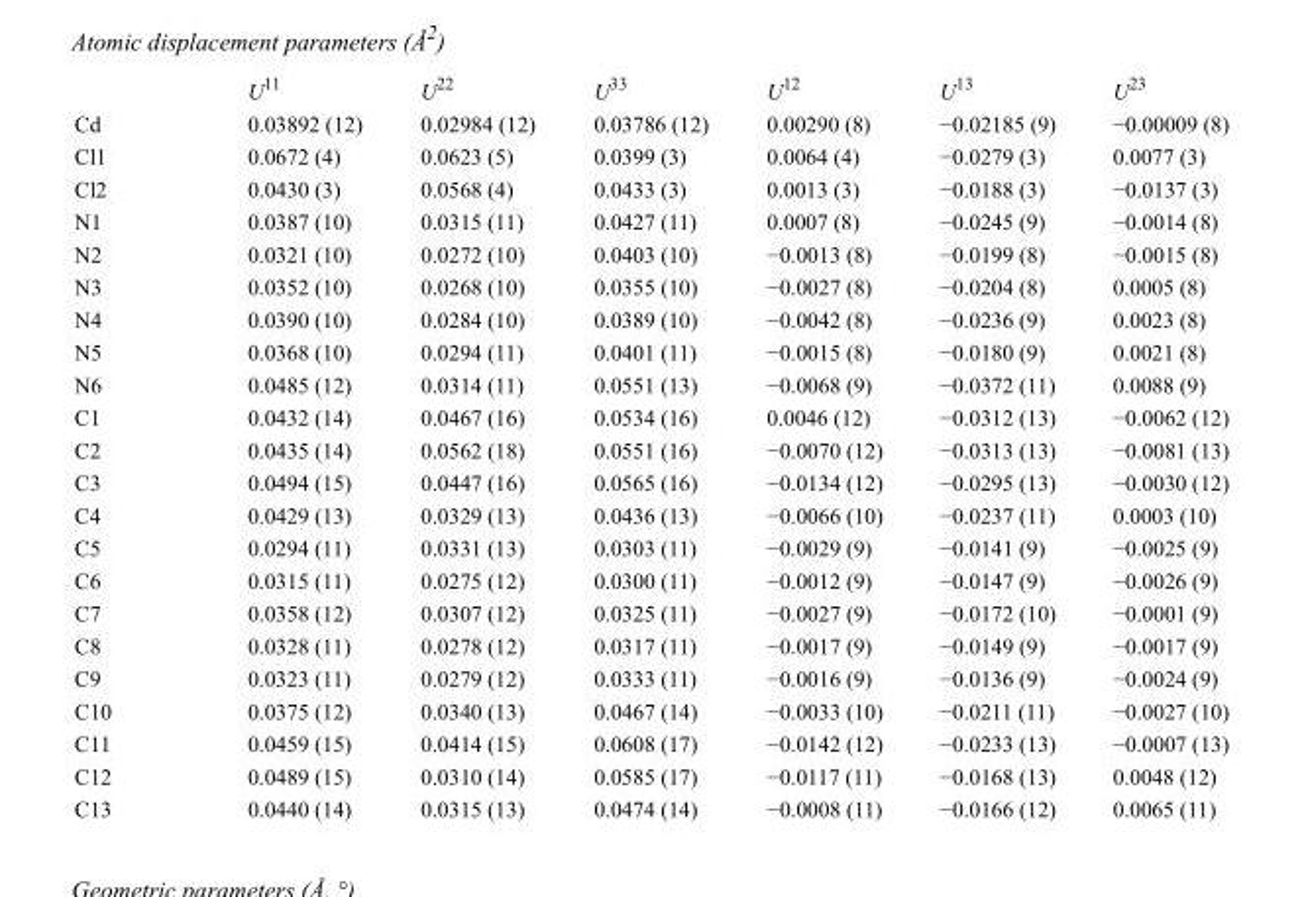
<table><thead><tr><td></td><td>U<sup>11</sup></td><td>U<sup>22</sup></td><td>U<sup>33</sup></td><td>U<sup>12</sup></td><td>U<sup>13</sup></td><td>U<sup>23</sup></td></tr></thead><tbody><tr><td>Cd</td><td>0.03892 (12)</td><td>0.02984 (12)</td><td>0.03786 (12)</td><td>0.00290 (8)</td><td>−0.02185 (9)</td><td>−0.00009 (8)</td></tr><tr><td>Cl1</td><td>0.0672 (4)</td><td>0.0623 (5)</td><td>0.0399 (3)</td><td>0.0064 (4)</td><td>−0.0279 (3)</td><td>0.0077 (3)</td></tr><tr><td>Cl2</td><td>0.0430 (3)</td><td>0.0568 (4)</td><td>0.0433 (3)</td><td>0.0013 (3)</td><td>−0.0188 (3)</td><td>−0.0137 (3)</td></tr><tr><td>N1</td><td>0.0387 (10)</td><td>0.0315 (11)</td><td>0.0427 (11)</td><td>0.0007 (8)</td><td>−0.0245 (9)</td><td>−0.0014 (8)</td></tr><tr><td>N2</td><td>0.0321 (10)</td><td>0.0272 (10)</td><td>0.0403 (10)</td><td>−0.0013 (8)</td><td>−0.0199 (8)</td><td>−0.0015 (8)</td></tr><tr><td>N3</td><td>0.0352 (10)</td><td>0.0268 (10)</td><td>0.0355 (10)</td><td>−0.0027 (8)</td><td>−0.0204 (8)</td><td>0.0005 (8)</td></tr><tr><td>N4</td><td>0.0390 (10)</td><td>0.0284 (10)</td><td>0.0389 (10)</td><td>−0.0042 (8)</td><td>−0.0236 (9)</td><td>0.0023 (8)</td></tr><tr><td>N5</td><td>0.0368 (10)</td><td>0.0294 (11)</td><td>0.0401 (11)</td><td>−0.0015 (8)</td><td>−0.0180 (9)</td><td>0.0021 (8)</td></tr><tr><td>N6</td><td>0.0485 (12)</td><td>0.0314 (11)</td><td>0.0551 (13)</td><td>−0.0068 (9)</td><td>−0.0372 (11)</td><td>0.0088 (9)</td></tr><tr><td>C1</td><td>0.0432 (14)</td><td>0.0467 (16)</td><td>0.0534 (16)</td><td>0.0046 (12)</td><td>−0.0312 (13)</td><td>−0.0062 (12)</td></tr><tr><td>C2</td><td>0.0435 (14)</td><td>0.0562 (18)</td><td>0.0551 (16)</td><td>−0.0070 (12)</td><td>−0.0313 (13)</td><td>−0.0081 (13)</td></tr><tr><td>C3</td><td>0.0494 (15)</td><td>0.0447 (16)</td><td>0.0565 (16)</td><td>−0.0134 (12)</td><td>−0.0295 (13)</td><td>−0.0030 (12)</td></tr><tr><td>C4</td><td>0.0429 (13)</td><td>0.0329 (13)</td><td>0.0436 (13)</td><td>−0.0066 (10)</td><td>−0.0237 (11)</td><td>0.0003 (10)</td></tr><tr><td>C5</td><td>0.0294 (11)</td><td>0.0331 (13)</td><td>0.0303 (11)</td><td>−0.0029 (9)</td><td>−0.0141 (9)</td><td>−0.0025 (9)</td></tr><tr><td>C6</td><td>0.0315 (11)</td><td>0.0275 (12)</td><td>0.0300 (11)</td><td>−0.0012 (9)</td><td>−0.0147 (9)</td><td>−0.0026 (9)</td></tr><tr><td>C7</td><td>0.0358 (12)</td><td>0.0307 (12)</td><td>0.0325 (11)</td><td>−0.0027 (9)</td><td>−0.0172 (10)</td><td>−0.0001 (9)</td></tr><tr><td>C8</td><td>0.0328 (11)</td><td>0.0278 (12)</td><td>0.0317 (11)</td><td>−0.0017 (9)</td><td>−0.0149 (9)</td><td>−0.0017 (9)</td></tr><tr><td>C9</td><td>0.0323 (11)</td><td>0.0279 (12)</td><td>0.0333 (11)</td><td>−0.0016 (9)</td><td>−0.0136 (9)</td><td>−0.0024 (9)</td></tr><tr><td>C10</td><td>0.0375 (12)</td><td>0.0340 (13)</td><td>0.0467 (14)</td><td>−0.0033 (10)</td><td>−0.0211 (11)</td><td>−0.0027 (10)</td></tr><tr><td>C11</td><td>0.0459 (15)</td><td>0.0414 (15)</td><td>0.0608 (17)</td><td>−0.0142 (12)</td><td>−0.0233 (13)</td><td>−0.0007 (13)</td></tr><tr><td>C12</td><td>0.0489 (15)</td><td>0.0310 (14)</td><td>0.0585 (17)</td><td>−0.0117 (11)</td><td>−0.0168 (13)</td><td>0.0048 (12)</td></tr><tr><td>C13</td><td>0.0440 (14)</td><td>0.0315 (13)</td><td>0.0474 (14)</td><td>−0.0008 (11)</td><td>−0.0166 (12)</td><td>0.0065 (11)</td></tr></tbody></table>